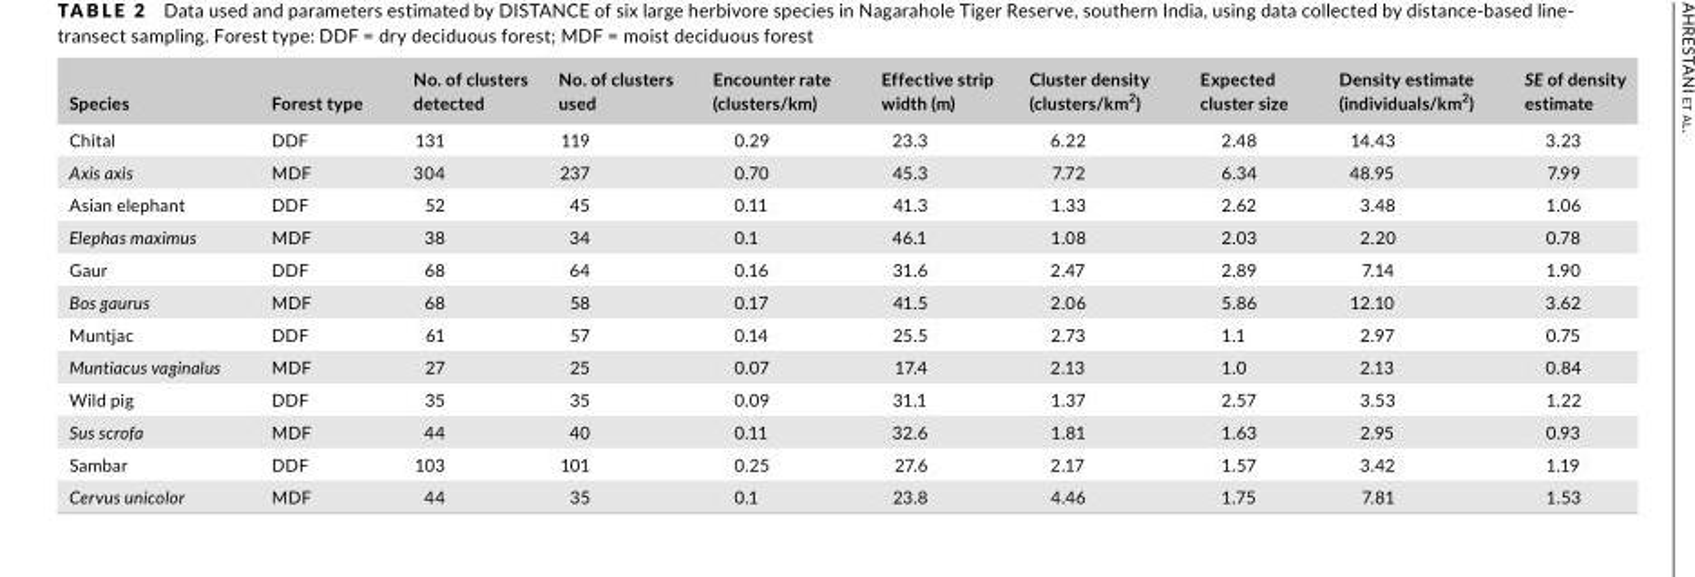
<table><thead><tr><td>Species</td><td>Forest type</td><td>No. of clusters detected</td><td>No. of clusters used</td><td>Encounter rate (clusters/km)</td><td>Effective strip width (m)</td><td>Cluster density (clusters/km<sup>2</sup>)</td><td>Expected cluster size</td><td>Density estimate (individuals/km<sup>2</sup>)</td><td>SE of density estimate</td></tr></thead><tbody><tr><td>Chital</td><td>DDF</td><td>131</td><td>119</td><td>0.29</td><td>23.3</td><td>6.22</td><td>2.48</td><td>14.43</td><td>3.23</td></tr><tr><td>Axis axis</td><td>MDF</td><td>304</td><td>237</td><td>0.70</td><td>45.3</td><td>7.72</td><td>6.34</td><td>48.95</td><td>7.99</td></tr><tr><td>Asian elephant</td><td>DDF</td><td>52</td><td>45</td><td>0.11</td><td>41.3</td><td>1.33</td><td>2.62</td><td>3.48</td><td>1.06</td></tr><tr><td>Elephas maximus</td><td>MDF</td><td>38</td><td>34</td><td>0.1</td><td>46.1</td><td>1.08</td><td>2.03</td><td>2.20</td><td>0.78</td></tr><tr><td>Gaur</td><td>DDF</td><td>68</td><td>64</td><td>0.16</td><td>31.6</td><td>2.47</td><td>2.89</td><td>7.14</td><td>1.90</td></tr><tr><td>Bos gaurus</td><td>MDF</td><td>68</td><td>58</td><td>0.17</td><td>41.5</td><td>2.06</td><td>5.86</td><td>12.10</td><td>3.62</td></tr><tr><td>Muntjac</td><td>DDF</td><td>61</td><td>57</td><td>0.14</td><td>25.5</td><td>2.73</td><td>1.1</td><td>2.97</td><td>0.75</td></tr><tr><td>Muntiacus vaginalus</td><td>MDF</td><td>27</td><td>25</td><td>0.07</td><td>17.4</td><td>2.13</td><td>1.0</td><td>2.13</td><td>0.84</td></tr><tr><td>Wild pig</td><td>DDF</td><td>35</td><td>35</td><td>0.09</td><td>31.1</td><td>1.37</td><td>2.57</td><td>3.53</td><td>1.22</td></tr><tr><td>Sus scrofa</td><td>MDF</td><td>44</td><td>40</td><td>0.11</td><td>32.6</td><td>1.81</td><td>1.63</td><td>2.95</td><td>0.93</td></tr><tr><td>Sambar</td><td>DDF</td><td>103</td><td>101</td><td>0.25</td><td>27.6</td><td>2.17</td><td>1.57</td><td>3.42</td><td>1.19</td></tr><tr><td>Cervus unicolor</td><td>MDF</td><td>44</td><td>35</td><td>0.1</td><td>23.8</td><td>4.46</td><td>1.75</td><td>7.81</td><td>1.53</td></tr></tbody></table>